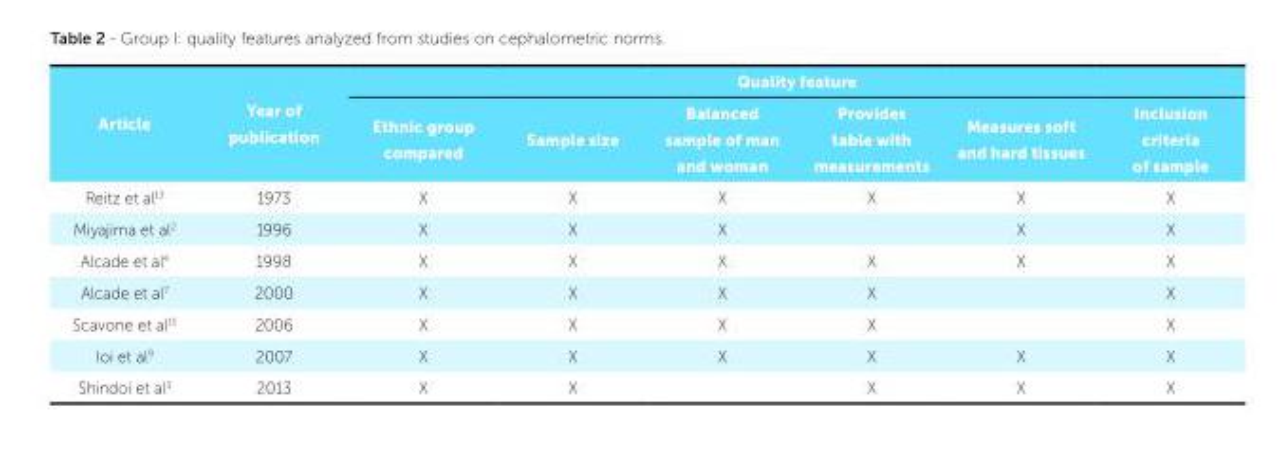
<table><thead><tr><td rowspan="2">Article</td><td rowspan="2">Year of publication</td><td colspan="6">Quality feature</td></tr><tr><td>Ethnic group compared</td><td>Sample size</td><td>Balanced sample of man and woman</td><td>Provides table with measurements</td><td>Measures soft and hard tissues</td><td>Inclusion criteria of sample</td></tr></thead><tbody><tr><td>Reitz et al<sup>13</sup></td><td>1973</td><td>X</td><td>X</td><td>X</td><td>X</td><td>X</td><td>X</td></tr><tr><td>Miyajima et al<sup>2</sup></td><td>1996</td><td>X</td><td>X</td><td>X</td><td></td><td>X</td><td>X</td></tr><tr><td>Alcade et al<sup>4</sup></td><td>1998</td><td>X</td><td>X</td><td>X</td><td>X</td><td>X</td><td>X</td></tr><tr><td>Alcade et al<sup>7</sup></td><td>2000</td><td>X</td><td>X</td><td>X</td><td>X</td><td></td><td>X</td></tr><tr><td>Scavone et al<sup>15</sup></td><td>2006</td><td>X</td><td>X</td><td>X</td><td>X</td><td></td><td>X</td></tr><tr><td>Ioi et al<sup>9</sup></td><td>2007</td><td>X</td><td>X</td><td>X</td><td>X</td><td>X</td><td>X</td></tr><tr><td>Shindoi et al<sup>3</sup></td><td>2013</td><td>X</td><td>X</td><td></td><td>X</td><td>X</td><td>X</td></tr></tbody></table>